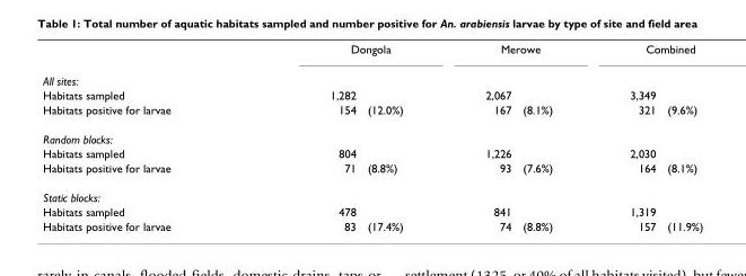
<table><thead><tr><td rowspan="2">All sites:</td><td colspan="2">Dongola</td><td colspan="2">Merowe</td><td colspan="2">Combined</td></tr><tr><td></td><td></td><td></td><td></td><td></td><td></td></tr></thead><tbody><tr><td>Habitats sampled</td><td>1,282</td><td></td><td>2,067</td><td></td><td>3,349</td><td></td></tr><tr><td>Habitats positive for larvae</td><td>154</td><td>(12.0%)</td><td>167</td><td>(8.1%)</td><td>321</td><td>(9.6%)</td></tr><tr><td colspan="7">Random blocks:</td></tr><tr><td>Habitats sampled</td><td>804</td><td></td><td>1,226</td><td></td><td>2,030</td><td></td></tr><tr><td>Habitats positive for larvae</td><td>71</td><td>(8.8%)</td><td>93</td><td>(7.6%)</td><td>164</td><td>(8.1%)</td></tr><tr><td colspan="7">Static blocks:</td></tr><tr><td>Habitats sampled</td><td>478</td><td></td><td>841</td><td></td><td>1,319</td><td></td></tr><tr><td>Habitats positive for larvae</td><td>83</td><td>(17.4%)</td><td>74</td><td>(8.8%)</td><td>157</td><td>(11.9%)</td></tr></tbody></table>